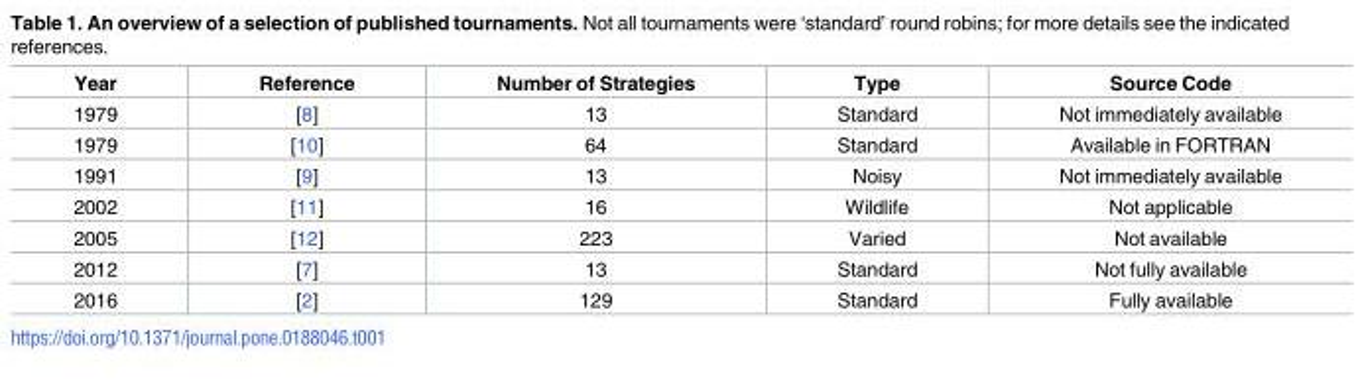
<table><thead><tr><td>Year</td><td>Reference</td><td>Number of Strategies</td><td>Type</td><td>Source Code</td></tr></thead><tbody><tr><td>1979</td><td>[8]</td><td>13</td><td>Standard</td><td>Not immediately available</td></tr><tr><td>1979</td><td>[10]</td><td>64</td><td>Standard</td><td>Available in FORTRAN</td></tr><tr><td>1991</td><td>[9]</td><td>13</td><td>Noisy</td><td>Not immediately available</td></tr><tr><td>2002</td><td>[11]</td><td>16</td><td>Wildlife</td><td>Not applicable</td></tr><tr><td>2005</td><td>[12]</td><td>223</td><td>Varied</td><td>Not available</td></tr><tr><td>2012</td><td>[7]</td><td>13</td><td>Standard</td><td>Not fully available</td></tr><tr><td>2016</td><td>[2]</td><td>129</td><td>Standard</td><td>Fully available</td></tr></tbody></table>